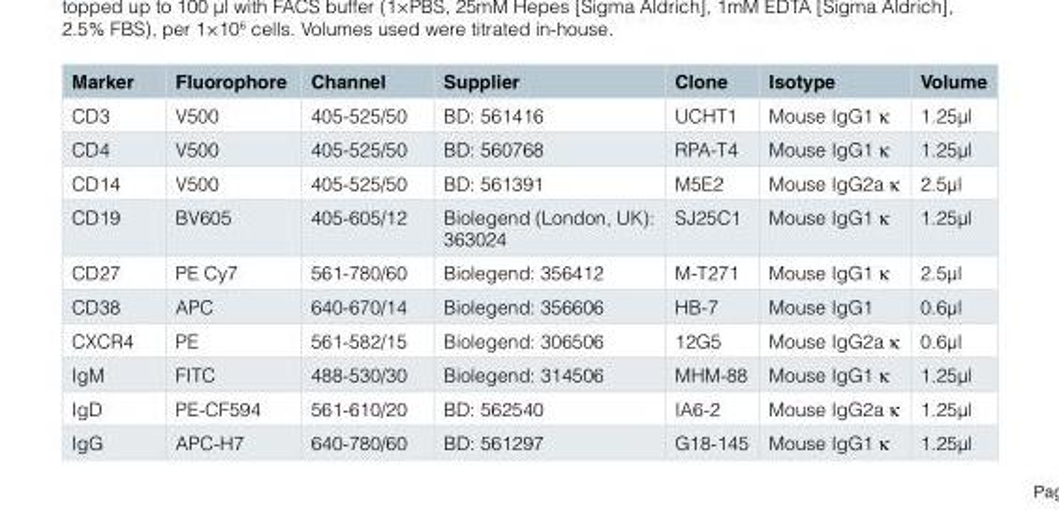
<table><thead><tr><td>Marker</td><td>Fluorophore</td><td>Channel</td><td>Supplier</td><td>Clone</td><td>Isotype</td><td>Volume</td></tr></thead><tbody><tr><td>CD3</td><td>V500</td><td>405-525/50</td><td>BD: 561416</td><td>UCHT1</td><td>Mouse IgG1 κ</td><td>1.25μl</td></tr><tr><td>CD4</td><td>V500</td><td>405-525/50</td><td>BD: 560768</td><td>RPA-T4</td><td>Mouse IgG1 κ</td><td>1.25μl</td></tr><tr><td>CD14</td><td>V500</td><td>405-525/50</td><td>BD: 561391</td><td>M5E2</td><td>Mouse IgG2a κ</td><td>2.5μl</td></tr><tr><td>CD19</td><td>BV605</td><td>405-605/12</td><td>Biolegend (London, UK): 363024</td><td>SJ25C1</td><td>Mouse IgG1 κ</td><td>1.25μl</td></tr><tr><td>CD27</td><td>PE Cy7</td><td>561-780/60</td><td>Biolegend: 356412</td><td>M-T271</td><td>Mouse IgG1 κ</td><td>2.5μl</td></tr><tr><td>CD38</td><td>APC</td><td>640-670/14</td><td>Biolegend: 356606</td><td>HB-7</td><td>Mouse IgG1</td><td>0.6μl</td></tr><tr><td>CXCR4</td><td>PE</td><td>561-582/15</td><td>Biolegend: 306506</td><td>12G5</td><td>Mouse IgG2a κ</td><td>0.6μl</td></tr><tr><td>IgM</td><td>FITC</td><td>488-530/30</td><td>Biolegend: 314506</td><td>MHM-88</td><td>Mouse IgG1 κ</td><td>1.25μl</td></tr><tr><td>IgD</td><td>PE-CF594</td><td>561-610/20</td><td>BD: 562540</td><td>IA6-2</td><td>Mouse IgG2a κ</td><td>1.25μl</td></tr><tr><td>IgG</td><td>APC-H7</td><td>640-780/60</td><td>BD: 561297</td><td>G18-145</td><td>Mouse IgG1 κ</td><td>1.25μl</td></tr></tbody></table>